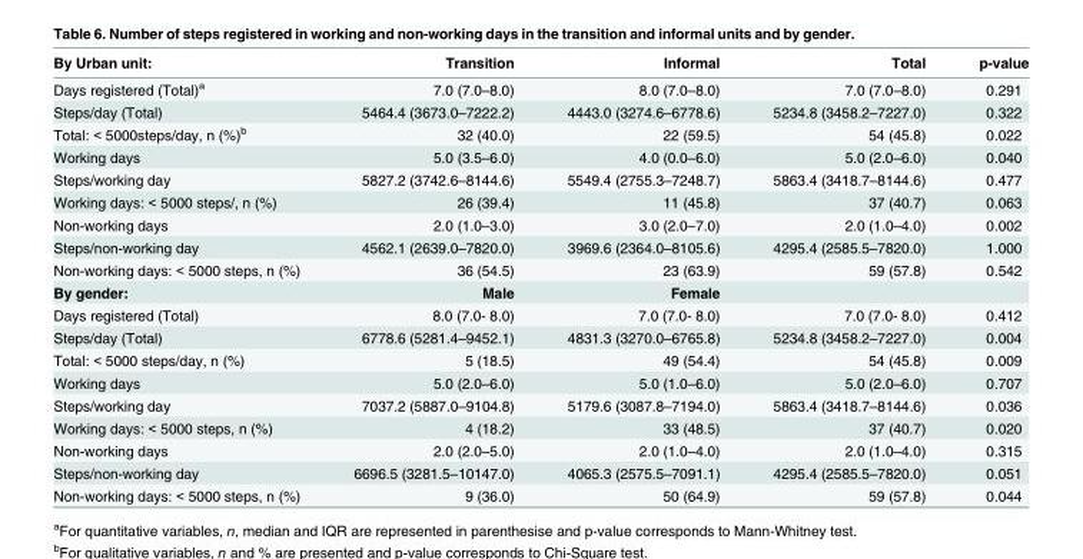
<table><thead><tr><td>By Urban unit:</td><td>Transition</td><td>Informal</td><td>Total</td><td>p-value</td></tr></thead><tbody><tr><td>Days registered (Total)<sup>a</sup></td><td>7.0 (7.0–8.0)</td><td>8.0 (7.0–8.0)</td><td>7.0 (7.0–8.0)</td><td>0.291</td></tr><tr><td>Steps/day (Total)</td><td>5464.4 (3673.0–7222.2)</td><td>4443.0 (3274.6–6778.6)</td><td>5234.8 (3458.2–7227.0)</td><td>0.322</td></tr><tr><td>Total: &lt; 5000steps/day, n (%)<sup>b</sup></td><td>32 (40.0)</td><td>22 (59.5)</td><td>54 (45.8)</td><td>0.022</td></tr><tr><td>Working days</td><td>5.0 (3.5–6.0)</td><td>4.0 (0.0–6.0)</td><td>5.0 (2.0–6.0)</td><td>0.040</td></tr><tr><td>Steps/working day</td><td>5827.2 (3742.6–8144.6)</td><td>5549.4 (2755.3–7248.7)</td><td>5863.4 (3418.7–8144.6)</td><td>0.477</td></tr><tr><td>Working days: &lt; 5000 steps/, n (%)</td><td>26 (39.4)</td><td>11 (45.8)</td><td>37 (40.7)</td><td>0.063</td></tr><tr><td>Non-working days</td><td>2.0 (1.0–3.0)</td><td>3.0 (2.0–7.0)</td><td>2.0 (1.0–4.0)</td><td>0.002</td></tr><tr><td>Steps/non-working day</td><td>4562.1 (2639.0–7820.0)</td><td>3969.6 (2364.0–8105.6)</td><td>4295.4 (2585.5–7820.0)</td><td>1.000</td></tr><tr><td>Non-working days: &lt; 5000 steps, n (%)</td><td>36 (54.5)</td><td>23 (63.9)</td><td>59 (57.8)</td><td>0.542</td></tr><tr><td>By gender:</td><td>Male</td><td>Female</td><td></td><td></td></tr><tr><td>Days registered (Total)</td><td>8.0 (7.0- 8.0)</td><td>7.0 (7.0- 8.0)</td><td>7.0 (7.0- 8.0)</td><td>0.412</td></tr><tr><td>Steps/day (Total)</td><td>6778.6 (5281.4–9452.1)</td><td>4831.3 (3270.0–6765.8)</td><td>5234.8 (3458.2–7227.0)</td><td>0.004</td></tr><tr><td>Total: &lt; 5000 steps/day, n (%)</td><td>5 (18.5)</td><td>49 (54.4)</td><td>54 (45.8)</td><td>0.009</td></tr><tr><td>Working days</td><td>5.0 (2.0–6.0)</td><td>5.0 (1.0–6.0)</td><td>5.0 (2.0–6.0)</td><td>0.707</td></tr><tr><td>Steps/working day</td><td>7037.2 (5887.0–9104.8)</td><td>5179.6 (3087.8–7194.0)</td><td>5863.4 (3418.7–8144.6)</td><td>0.036</td></tr><tr><td>Working days: &lt; 5000 steps, n (%)</td><td>4 (18.2)</td><td>33 (48.5)</td><td>37 (40.7)</td><td>0.020</td></tr><tr><td>Non-working days</td><td>2.0 (2.0–5.0)</td><td>2.0 (1.0–4.0)</td><td>2.0 (1.0–4.0)</td><td>0.315</td></tr><tr><td>Steps/non-working day</td><td>6696.5 (3281.5–10147.0)</td><td>4065.3 (2575.5–7091.1)</td><td>4295.4 (2585.5–7820.0)</td><td>0.051</td></tr><tr><td>Non-working days: &lt; 5000 steps, n (%)</td><td>9 (36.0)</td><td>50 (64.9)</td><td>59 (57.8)</td><td>0.044</td></tr></tbody></table>